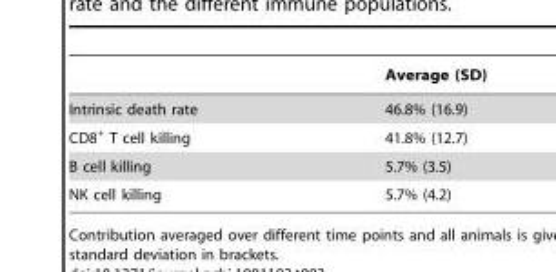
<table><thead><tr><td></td><td>Average (SD)</td></tr></thead><tbody><tr><td>Intrinsic death rate</td><td>46.8% (16.9)</td></tr><tr><td>CD8<sup>+</sup> T cell killing</td><td>41.8% (12.7)</td></tr><tr><td>B cell killing</td><td>5.7% (3.5)</td></tr><tr><td>NK cell killing</td><td>5.7% (4.2)</td></tr></tbody></table>